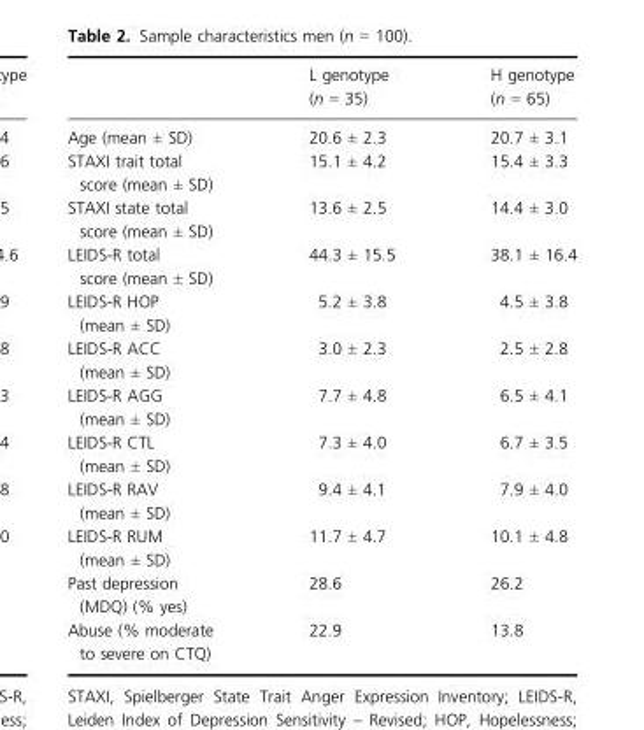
<table><thead><tr><td></td><td>L genotype (n = 35)</td><td>H genotype (n = 65)</td></tr></thead><tbody><tr><td>Age (mean ± SD)</td><td>20.6 ± 2.3</td><td>20.7 ± 3.1</td></tr><tr><td>STAXI trait total score (mean ± SD)</td><td>15.1 ± 4.2</td><td>15.4 ± 3.3</td></tr><tr><td>STAXI state total score (mean ± SD)</td><td>13.6 ± 2.5</td><td>14.4 ± 3.0</td></tr><tr><td>LEIDS-R total score (mean ± SD)</td><td>44.3 ± 15.5</td><td>38.1 ± 16.4</td></tr><tr><td>LEIDS-R HOP (mean ± SD)</td><td>5.2 ± 3.8</td><td>4.5 ± 3.8</td></tr><tr><td>LEIDS-R ACC (mean ± SD)</td><td>3.0 ± 2.3</td><td>2.5 ± 2.8</td></tr><tr><td>LEIDS-R AGG (mean ± SD)</td><td>7.7 ± 4.8</td><td>6.5 ± 4.1</td></tr><tr><td>LEIDS-R CTL (mean ± SD)</td><td>7.3 ± 4.0</td><td>6.7 ± 3.5</td></tr><tr><td>LEIDS-R RAV (mean ± SD)</td><td>9.4 ± 4.1</td><td>7.9 ± 4.0</td></tr><tr><td>LEIDS-R RUM (mean ± SD)</td><td>11.7 ± 4.7</td><td>10.1 ± 4.8</td></tr><tr><td>Past depression (MDQ) (% yes)</td><td>28.6</td><td>26.2</td></tr><tr><td>Abuse (% moderate to severe on CTQ)</td><td>22.9</td><td>13.8</td></tr></tbody></table>